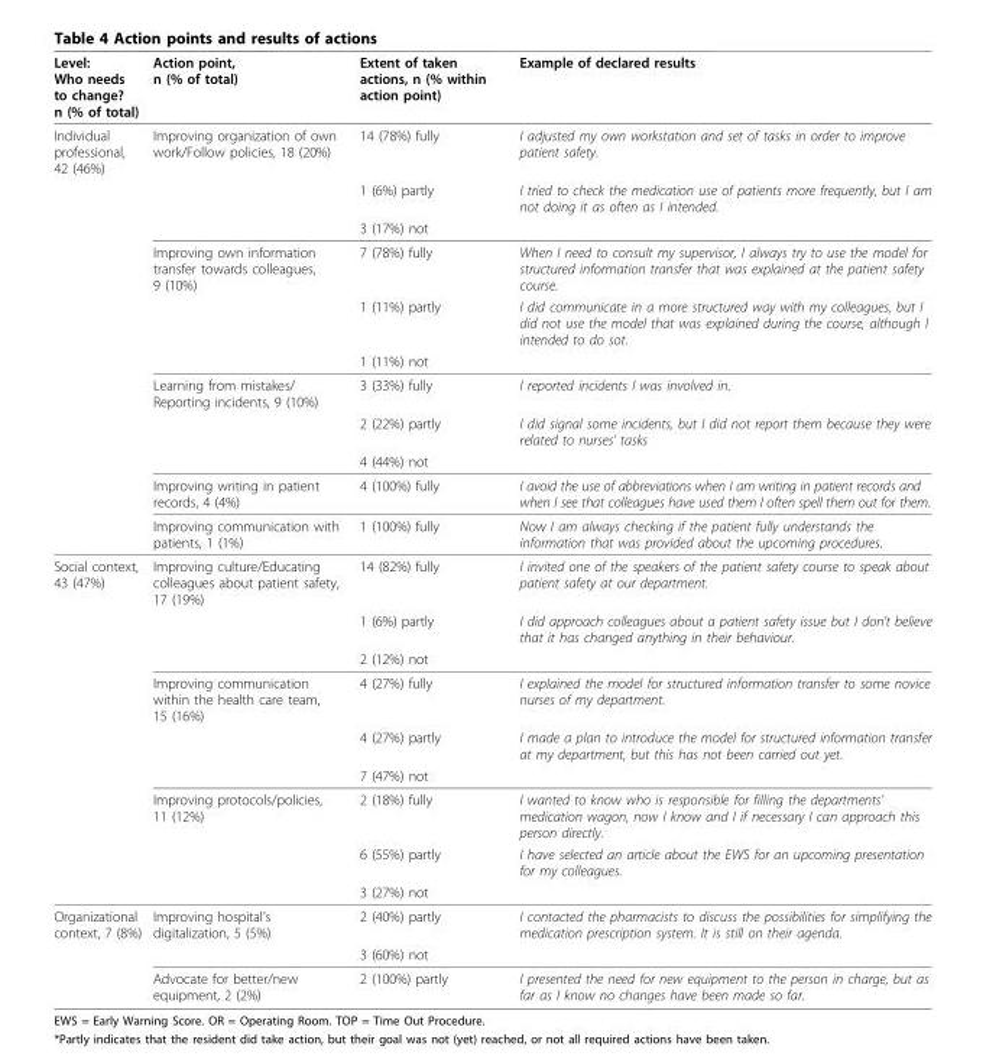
<table><thead><tr><td>Level: Who needs to change? n (% of total)</td><td>Action point, n (% of total)</td><td>Extent of taken actions, n (% within action point)</td><td>Example of declared results</td></tr></thead><tbody><tr><td rowspan="11">Individual professional, 42 (46%)</td><td>Improving organization of own work/Follow policies, 18 (20%)</td><td>14 (78%) fully</td><td>I adjusted my own workstation and set of tasks in order to improve patient safety.</td></tr><tr><td></td><td>1 (6%) partly</td><td>I tried to check the medication use of patients more frequently, but I am not doing it as often as I intended.</td></tr><tr><td></td><td>3 (17%) not</td><td></td></tr><tr><td>Improving own information transfer towards colleagues, 9 (10%)</td><td>7 (78%) fully</td><td>When I need to consult my supervisor, I always try to use the model for structured information transfer that was explained at the patient safety course.</td></tr><tr><td></td><td>1 (11%) partly</td><td>I did communicate in a more structured way with my colleagues, but I did not use the model that was explained during the course, although I intended to do sot.</td></tr><tr><td></td><td>1 (11%) not</td><td></td></tr><tr><td>Learning from mistakes/ Reporting incidents, 9 (10%)</td><td>3 (33%) fully</td><td>I reported incidents I was involved in.</td></tr><tr><td></td><td>2 (22%) partly</td><td>I did signal some incidents, but I did not report them because they were related to nurses’ tasks</td></tr><tr><td></td><td>4 (44%) not</td><td></td></tr><tr><td>Improving writing in patient records, 4 (4%)</td><td>4 (100%) fully</td><td>I avoid the use of abbreviations when I am writing in patient records and when I see that colleagues have used them I often spell them out for them.</td></tr><tr><td>Improving communication with patients, 1 (1%)</td><td>1 (100%) fully</td><td>Now I am always checking if the patient fully understands the information that was provided about the upcoming procedures.</td></tr><tr><td rowspan="9">Social context, 43 (47%)</td><td>Improving culture/Educating colleagues about patient safety, 17 (19%)</td><td>14 (82%) fully</td><td>I invited one of the speakers of the patient safety course to speak about patient safety at our department.</td></tr><tr><td></td><td>1 (6%) partly</td><td>I did approach colleagues about a patient safety issue but I don’t believe that it has changed anything in their behaviour.</td></tr><tr><td></td><td>2 (12%) not</td><td></td></tr><tr><td>Improving communication within the health care team, 15 (16%)</td><td>4 (27%) fully</td><td>I explained the model for structured information transfer to some novice nurses of my department.</td></tr><tr><td></td><td>4 (27%) partly</td><td>I made a plan to introduce the model for structured information transfer at my department, but this has not been carried out yet.</td></tr><tr><td></td><td>7 (47%) not</td><td></td></tr><tr><td>Improving protocols/policies, 11 (12%)</td><td>2 (18%) fully</td><td>I wanted to know who is responsible for filling the departments’ medication wagon, now I know and I if necessary I can approach this person directly.</td></tr><tr><td></td><td>6 (55%) partly</td><td>I have selected an article about the EWS for an upcoming presentation for my colleagues.</td></tr><tr><td></td><td>3 (27%) not</td><td></td></tr><tr><td rowspan="3">Organizational context, 7 (8%)</td><td>Improving hospital’s digitalization, 5 (5%)</td><td>2 (40%) partly</td><td>I contacted the pharmacists to discuss the possibilities for simplifying the medication prescription system. It is still on their agenda.</td></tr><tr><td></td><td>3 (60%) not</td><td></td></tr><tr><td>Advocate for better/new equipment, 2 (2%)</td><td>2 (100%) partly</td><td>I presented the need for new equipment to the person in charge, but as far as I know no changes have been made so far.</td></tr></tbody></table>